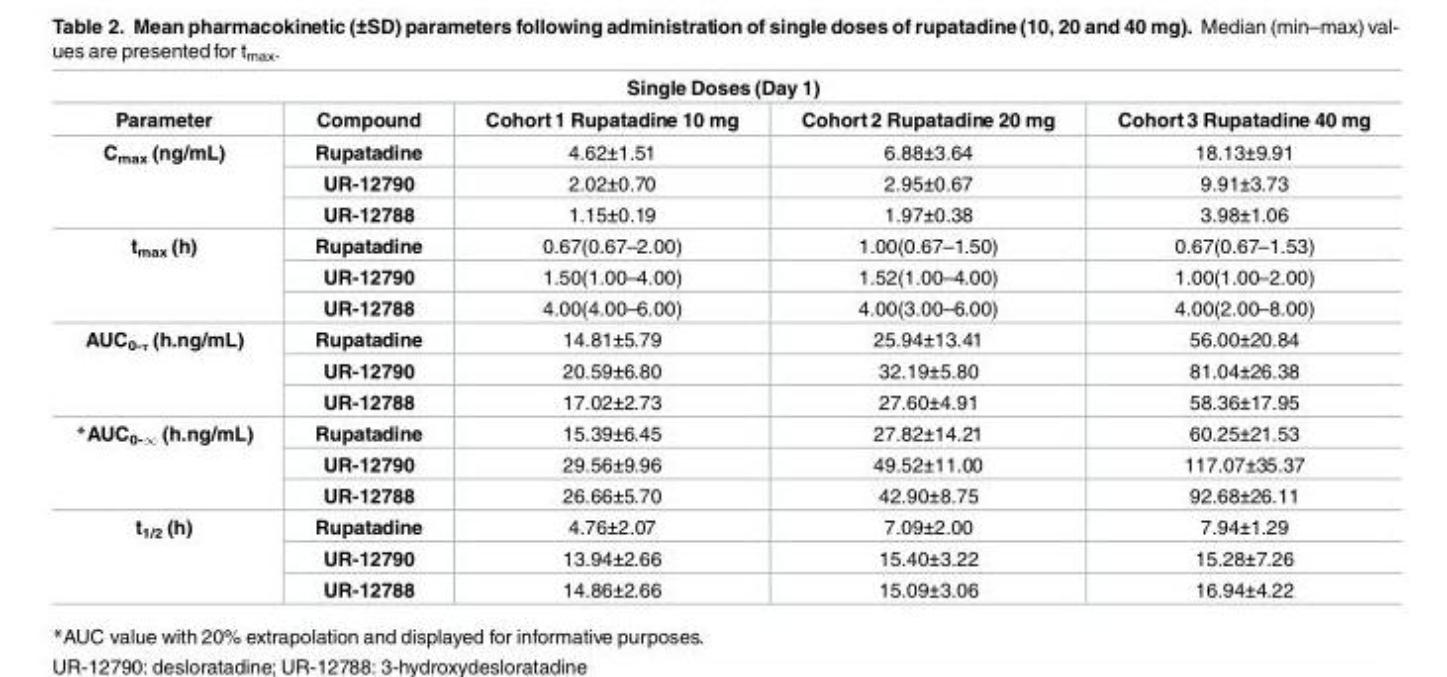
<table><thead><tr><td colspan="5">Single Doses (Day 1)</td></tr><tr><td>Parameter</td><td>Compound</td><td>Cohort 1 Rupatadine 10 mg</td><td>Cohort 2 Rupatadine 20 mg</td><td>Cohort 3 Rupatadine 40 mg</td></tr></thead><tbody><tr><td rowspan="3">C<sub>max</sub> (ng/mL)</td><td>Rupatadine</td><td>4.62±1.51</td><td>6.88±3.64</td><td>18.13±9.91</td></tr><tr><td>UR-12790</td><td>2.02±0.70</td><td>2.95±0.67</td><td>9.91±3.73</td></tr><tr><td>UR-12788</td><td>1.15±0.19</td><td>1.97±0.38</td><td>3.98±1.06</td></tr><tr><td rowspan="3">t<sub>max</sub> (h)</td><td>Rupatadine</td><td>0.67(0.67–2.00)</td><td>1.00(0.67–1.50)</td><td>0.67(0.67–1.53)</td></tr><tr><td>UR-12790</td><td>1.50(1.00–4.00)</td><td>1.52(1.00–4.00)</td><td>1.00(1.00–2.00)</td></tr><tr><td>UR-12788</td><td>4.00(4.00–6.00)</td><td>4.00(3.00–6.00)</td><td>4.00(2.00–8.00)</td></tr><tr><td rowspan="3">AUC<sub>0-τ</sub> (h.ng/mL)</td><td>Rupatadine</td><td>14.81±5.79</td><td>25.94±13.41</td><td>56.00±20.84</td></tr><tr><td>UR-12790</td><td>20.59±6.80</td><td>32.19±5.80</td><td>81.04±26.38</td></tr><tr><td>UR-12788</td><td>17.02±2.73</td><td>27.60±4.91</td><td>58.36±17.95</td></tr><tr><td rowspan="3">*AUC<sub>0-∞</sub> (h.ng/mL)</td><td>Rupatadine</td><td>15.39±6.45</td><td>27.82±14.21</td><td>60.25±21.53</td></tr><tr><td>UR-12790</td><td>29.56±9.96</td><td>49.52±11.00</td><td>117.07±35.37</td></tr><tr><td>UR-12788</td><td>26.66±5.70</td><td>42.90±8.75</td><td>92.68±26.11</td></tr><tr><td rowspan="3">t<sub>1/2</sub> (h)</td><td>Rupatadine</td><td>4.76±2.07</td><td>7.09±2.00</td><td>7.94±1.29</td></tr><tr><td>UR-12790</td><td>13.94±2.66</td><td>15.40±3.22</td><td>15.28±7.26</td></tr><tr><td>UR-12788</td><td>14.86±2.66</td><td>15.09±3.06</td><td>16.94±4.22</td></tr></tbody></table>